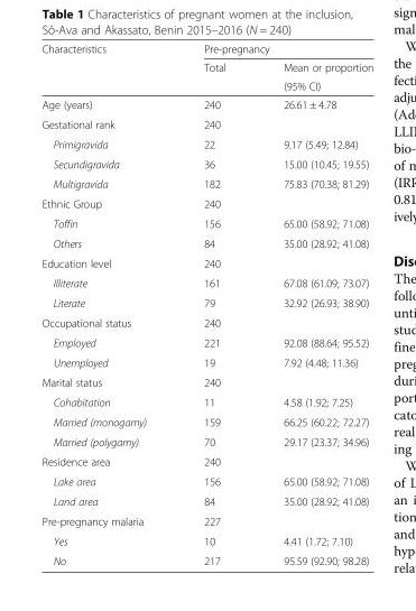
<table><thead><tr><td rowspan="3">Characteristics</td><td colspan="2">Pre-pregnancy</td></tr><tr><td rowspan="2">Total</td><td rowspan="2">Mean or proportion (95% CI)</td></tr><tr></tr></thead><tbody><tr><td>Age (years)</td><td>240</td><td>26.61 ± 4.78</td></tr><tr><td>Gestational rank</td><td>240</td><td></td></tr><tr><td>Primigravida</td><td>22</td><td>9.17 (5.49; 12.84)</td></tr><tr><td>Secundigravida</td><td>36</td><td>15.00 (10.45; 19.55)</td></tr><tr><td>Multigravida</td><td>182</td><td>75.83 (70.38; 81.29)</td></tr><tr><td>Ethnic Group</td><td>240</td><td></td></tr><tr><td>Toffin</td><td>156</td><td>65.00 (58.92; 71.08)</td></tr><tr><td>Others</td><td>84</td><td>35.00 (28.92; 41.08)</td></tr><tr><td>Education level</td><td>240</td><td></td></tr><tr><td>Illiterate</td><td>161</td><td>67.08 (61.09; 73.07)</td></tr><tr><td>Literate</td><td>79</td><td>32.92 (26.93; 38.90)</td></tr><tr><td>Occupational status</td><td>240</td><td></td></tr><tr><td>Employed</td><td>221</td><td>92.08 (88.64; 95.52)</td></tr><tr><td>Unemployed</td><td>19</td><td>7.92 (4.48; 11.36)</td></tr><tr><td>Marital status</td><td>240</td><td></td></tr><tr><td>Cohabitation</td><td>11</td><td>4.58 (1.92; 7.25)</td></tr><tr><td>Married (monogamy)</td><td>159</td><td>66.25 (60.22; 72.27)</td></tr><tr><td>Married (polygamy)</td><td>70</td><td>29.17 (23.37; 34.96)</td></tr><tr><td>Residence area</td><td>240</td><td></td></tr><tr><td>Lake area</td><td>156</td><td>65.00 (58.92; 71.08)</td></tr><tr><td>Land area</td><td>84</td><td>35.00 (28.92; 41.08)</td></tr><tr><td>Pre-pregnancy malaria</td><td>227</td><td></td></tr><tr><td>Yes</td><td>10</td><td>4.41 (1.72; 7.10)</td></tr><tr><td>No</td><td>217</td><td>95.59 (92.90; 98.28)</td></tr></tbody></table>